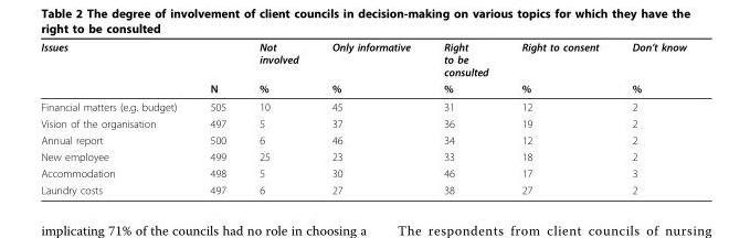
<table><thead><tr><td rowspan="2">Issues</td><td rowspan="2">N</td><td rowspan="2">Not involved %</td><td rowspan="2">Only informative %</td><td rowspan="2">Right to be consulted %</td><td rowspan="2">Right to consent %</td><td rowspan="2">Don’t know %</td></tr><tr></tr></thead><tbody><tr><td>Financial matters (e.g. budget)</td><td>505</td><td>10</td><td>45</td><td>31</td><td>12</td><td>2</td></tr><tr><td>Vision of the organisation</td><td>497</td><td>5</td><td>37</td><td>36</td><td>19</td><td>2</td></tr><tr><td>Annual report</td><td>500</td><td>6</td><td>46</td><td>34</td><td>12</td><td>2</td></tr><tr><td>New employee</td><td>499</td><td>25</td><td>23</td><td>33</td><td>18</td><td>2</td></tr><tr><td>Accommodation</td><td>498</td><td>5</td><td>30</td><td>46</td><td>17</td><td>3</td></tr><tr><td>Laundry costs</td><td>497</td><td>6</td><td>27</td><td>38</td><td>27</td><td>2</td></tr></tbody></table>